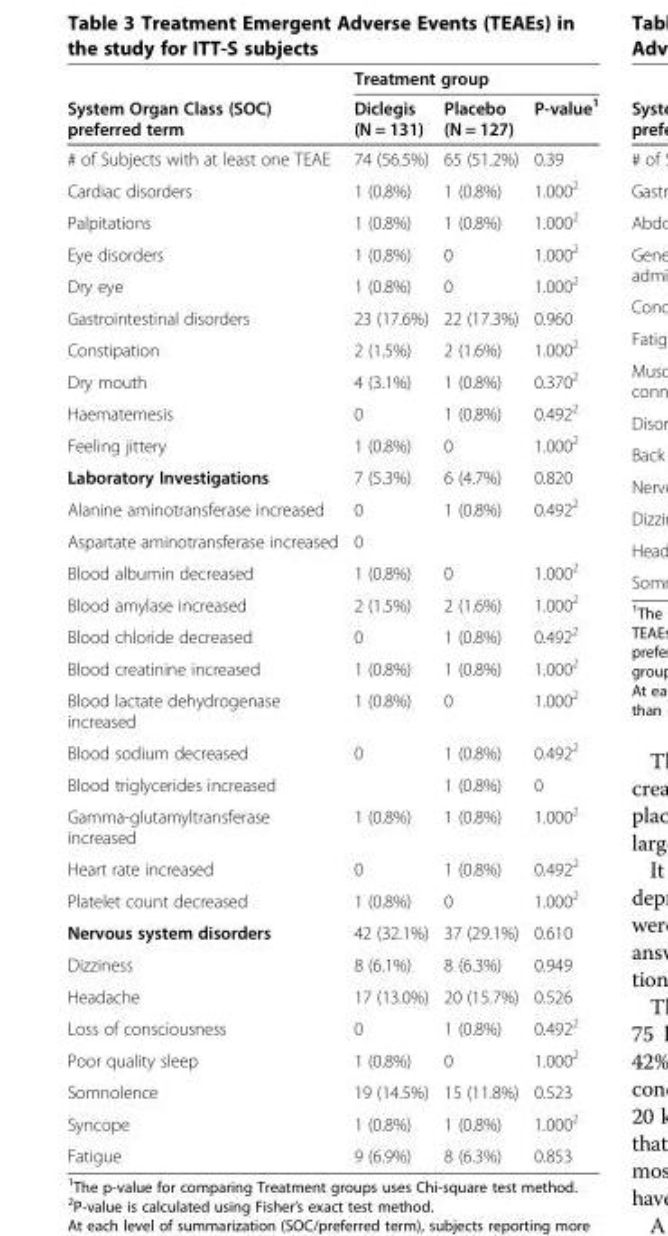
<table><thead><tr><td rowspan="2">System Organ Class (SOC) preferred term</td><td colspan="3">Treatment group</td></tr><tr><td>Diclegis (N = 131)</td><td>Placebo (N = 127)</td><td>P-value<sup>1</sup></td></tr></thead><tbody><tr><td># of Subjects with at least one TEAE</td><td>74 (56.5%)</td><td>65 (51.2%)</td><td>0.39</td></tr><tr><td>Cardiac disorders</td><td>1 (0.8%)</td><td>1 (0.8%)</td><td>1.000<sup>2</sup></td></tr><tr><td>Palpitations</td><td>1 (0.8%)</td><td>1 (0.8%)</td><td>1.000<sup>2</sup></td></tr><tr><td>Eye disorders</td><td>1 (0.8%)</td><td>0</td><td>1.000<sup>2</sup></td></tr><tr><td>Dry eye</td><td>1 (0.8%)</td><td>0</td><td>1.000<sup>2</sup></td></tr><tr><td>Gastrointestinal disorders</td><td>23 (17.6%)</td><td>22 (17.3%)</td><td>0.960</td></tr><tr><td>Constipation</td><td>2 (1.5%)</td><td>2 (1.6%)</td><td>1.000<sup>2</sup></td></tr><tr><td>Dry mouth</td><td>4 (3.1%)</td><td>1 (0.8%)</td><td>0.370<sup>2</sup></td></tr><tr><td>Haematemesis</td><td>0</td><td>1 (0.8%)</td><td>0.492<sup>2</sup></td></tr><tr><td>Feeling jittery</td><td>1 (0.8%)</td><td>0</td><td>1.000<sup>2</sup></td></tr><tr><td>Laboratory Investigations</td><td>7 (5.3%)</td><td>6 (4.7%)</td><td>0.820</td></tr><tr><td>Alanine aminotransferase increased</td><td>0</td><td>1 (0.8%)</td><td>0.492<sup>2</sup></td></tr><tr><td>Aspartate aminotransferase increased</td><td>0</td><td></td><td></td></tr><tr><td>Blood albumin decreased</td><td>1 (0.8%)</td><td>0</td><td>1.000<sup>2</sup></td></tr><tr><td>Blood amylase increased</td><td>2 (1.5%)</td><td>2 (1.6%)</td><td>1.000<sup>2</sup></td></tr><tr><td>Blood chloride decreased</td><td>0</td><td>1 (0.8%)</td><td>0.492<sup>2</sup></td></tr><tr><td>Blood creatinine increased</td><td>1 (0.8%)</td><td>1 (0.8%)</td><td>1.000<sup>2</sup></td></tr><tr><td>Blood lactate dehydrogenase increased</td><td>1 (0.8%)</td><td>0</td><td>1.000<sup>2</sup></td></tr><tr><td>Blood sodium decreased</td><td>0</td><td>1 (0.8%)</td><td>0.492<sup>2</sup></td></tr><tr><td>Blood triglycerides increased</td><td></td><td>1 (0.8%)</td><td>0</td></tr><tr><td>Gamma-glutamyltransferase increased</td><td>1 (0.8%)</td><td>1 (0.8%)</td><td>1.000<sup>2</sup></td></tr><tr><td>Heart rate increased</td><td>0</td><td>1 (0.8%)</td><td>0.492<sup>2</sup></td></tr><tr><td>Platelet count decreased</td><td>1 (0.8%)</td><td>0</td><td>1.000<sup>2</sup></td></tr><tr><td>Nervous system disorders</td><td>42 (32.1%)</td><td>37 (29.1%)</td><td>0.610</td></tr><tr><td>Dizziness</td><td>8 (6.1%)</td><td>8 (6.3%)</td><td>0.949</td></tr><tr><td>Headache</td><td>17 (13.0%)</td><td>20 (15.7%)</td><td>0.526</td></tr><tr><td>Loss of consciousness</td><td>0</td><td>1 (0.8%)</td><td>0.492<sup>2</sup></td></tr><tr><td>Poor quality sleep</td><td>1 (0.8%)</td><td>0</td><td>1.000<sup>2</sup></td></tr><tr><td>Somnolence</td><td>19 (14.5%)</td><td>15 (11.8%)</td><td>0.523</td></tr><tr><td>Syncope</td><td>1 (0.8%)</td><td>1 (0.8%)</td><td>1.000<sup>2</sup></td></tr><tr><td>Fatigue</td><td>9 (6.9%)</td><td>8 (6.3%)</td><td>0.853</td></tr></tbody></table>